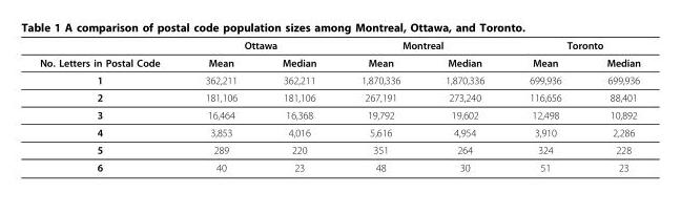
<table><thead><tr><td rowspan="2">No. Letters in Postal Code</td><td colspan="2">Ottawa</td><td colspan="2">Montreal</td><td colspan="2">Toronto</td></tr><tr><td>Mean</td><td>Median</td><td>Mean</td><td>Median</td><td>Mean</td><td>Median</td></tr></thead><tbody><tr><td>1</td><td>362,211</td><td>362,211</td><td>1,870,336</td><td>1,870,336</td><td>699,936</td><td>699,936</td></tr><tr><td>2</td><td>181,106</td><td>181,106</td><td>267,191</td><td>273,240</td><td>116,656</td><td>88,401</td></tr><tr><td>3</td><td>16,464</td><td>16,368</td><td>19,792</td><td>19,602</td><td>12,498</td><td>10,892</td></tr><tr><td>4</td><td>3,853</td><td>4,016</td><td>5,616</td><td>4,954</td><td>3,910</td><td>2,286</td></tr><tr><td>5</td><td>289</td><td>220</td><td>351</td><td>264</td><td>324</td><td>228</td></tr><tr><td>6</td><td>40</td><td>23</td><td>48</td><td>30</td><td>51</td><td>23</td></tr></tbody></table>